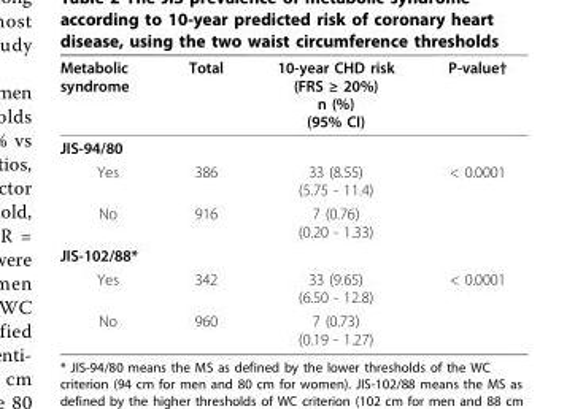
<table><thead><tr><td>Metabolic syndrome</td><td>Total</td><td>10-year CHD risk (FRS ≥ 20%) n (%) (95% CI)</td><td>P-value†</td></tr></thead><tbody><tr><td colspan="4">JIS-94/80</td></tr><tr><td>Yes</td><td>386</td><td>33 (8.55) (5.75 - 11.4)</td><td>&lt; 0.0001</td></tr><tr><td>No</td><td>916</td><td>7 (0.76) (0.20 - 1.33)</td><td></td></tr><tr><td colspan="4">JIS-102/88*</td></tr><tr><td>Yes</td><td>342</td><td>33 (9.65) (6.50 - 12.8)</td><td>&lt; 0.0001</td></tr><tr><td>No</td><td>960</td><td>7 (0.73) (0.19 - 1.27)</td><td></td></tr></tbody></table>